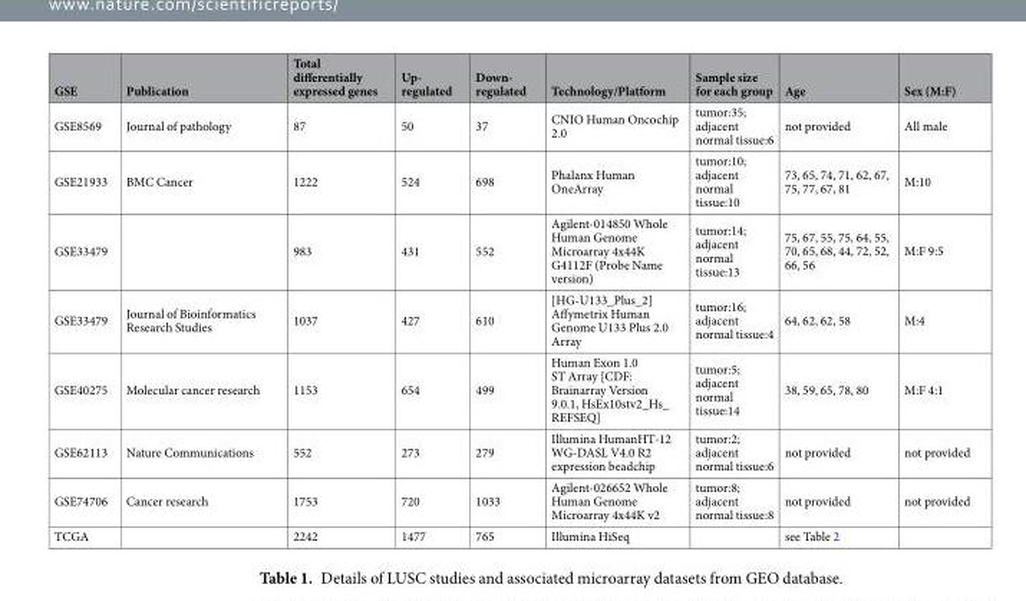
<table><thead><tr><td>GSE</td><td>Publication</td><td>Total differentially expressed genes</td><td>Up- regulated</td><td>Down- regulated</td><td>Technology/Platform</td><td>Sample size for each group</td><td>Age</td><td>Sex (M:F)</td></tr></thead><tbody><tr><td>GSE8569</td><td>Journal of pathology</td><td>87</td><td>50</td><td>37</td><td>CNIO Human Oncochip 2.0</td><td>tumor:35; adjacent normal tissue:6</td><td>not provided</td><td>All male</td></tr><tr><td>GSE21933</td><td>BMC Cancer</td><td>1222</td><td>524</td><td>698</td><td>Phalanx Human OneArray</td><td>tumor:10; adjacent normal tissue:10</td><td>73, 65, 74, 71, 62, 67, 75, 77, 67, 81</td><td>M:10</td></tr><tr><td>GSE33479</td><td></td><td>983</td><td>431</td><td>552</td><td>Agilent-014850 Whole Human Genome Microarray 4x44K G4112F (Probe Name version)</td><td>tumor:14; adjacent normal tissue:13</td><td>75, 67, 55, 75, 64, 55, 70, 65, 68, 44, 72, 52, 66, 56</td><td>M:F 9:5</td></tr><tr><td>GSE33479</td><td>Journal of Bioinformatics Research Studies</td><td>1037</td><td>427</td><td>610</td><td>[HG-U133_Plus_2] Affymetrix Human Genome U133 Plus 2.0 Array</td><td>tumor:16; adjacent normal tissue:4</td><td>64, 62, 62, 58</td><td>M:4</td></tr><tr><td>GSE40275</td><td>Molecular cancer research</td><td>1153</td><td>654</td><td>499</td><td>Human Exon 1.0 ST Array [CDF: Brainarray Version 9.0.1, HsEx10stv2_Hs_ REFSEQ]</td><td>tumor:5; adjacent normal tissue:14</td><td>38, 59, 65, 78, 80</td><td>M:F 4:1</td></tr><tr><td>GSE62113</td><td>Nature Communications</td><td>552</td><td>273</td><td>279</td><td>Illumina HumanHT-12 WG-DASL V4.0 R2 expression beadchip</td><td>tumor:2; adjacent normal tissue:6</td><td>not provided</td><td>not provided</td></tr><tr><td>GSE74706</td><td>Cancer research</td><td>1753</td><td>720</td><td>1033</td><td>Agilent-026652 Whole Human Genome Microarray 4x44K v2</td><td>tumor:8; adjacent normal tissue:8</td><td>not provided</td><td>not provided</td></tr><tr><td>TCGA</td><td></td><td>2242</td><td>1477</td><td>765</td><td>Illumina HiSeq</td><td></td><td>see Table 2</td><td></td></tr></tbody></table>